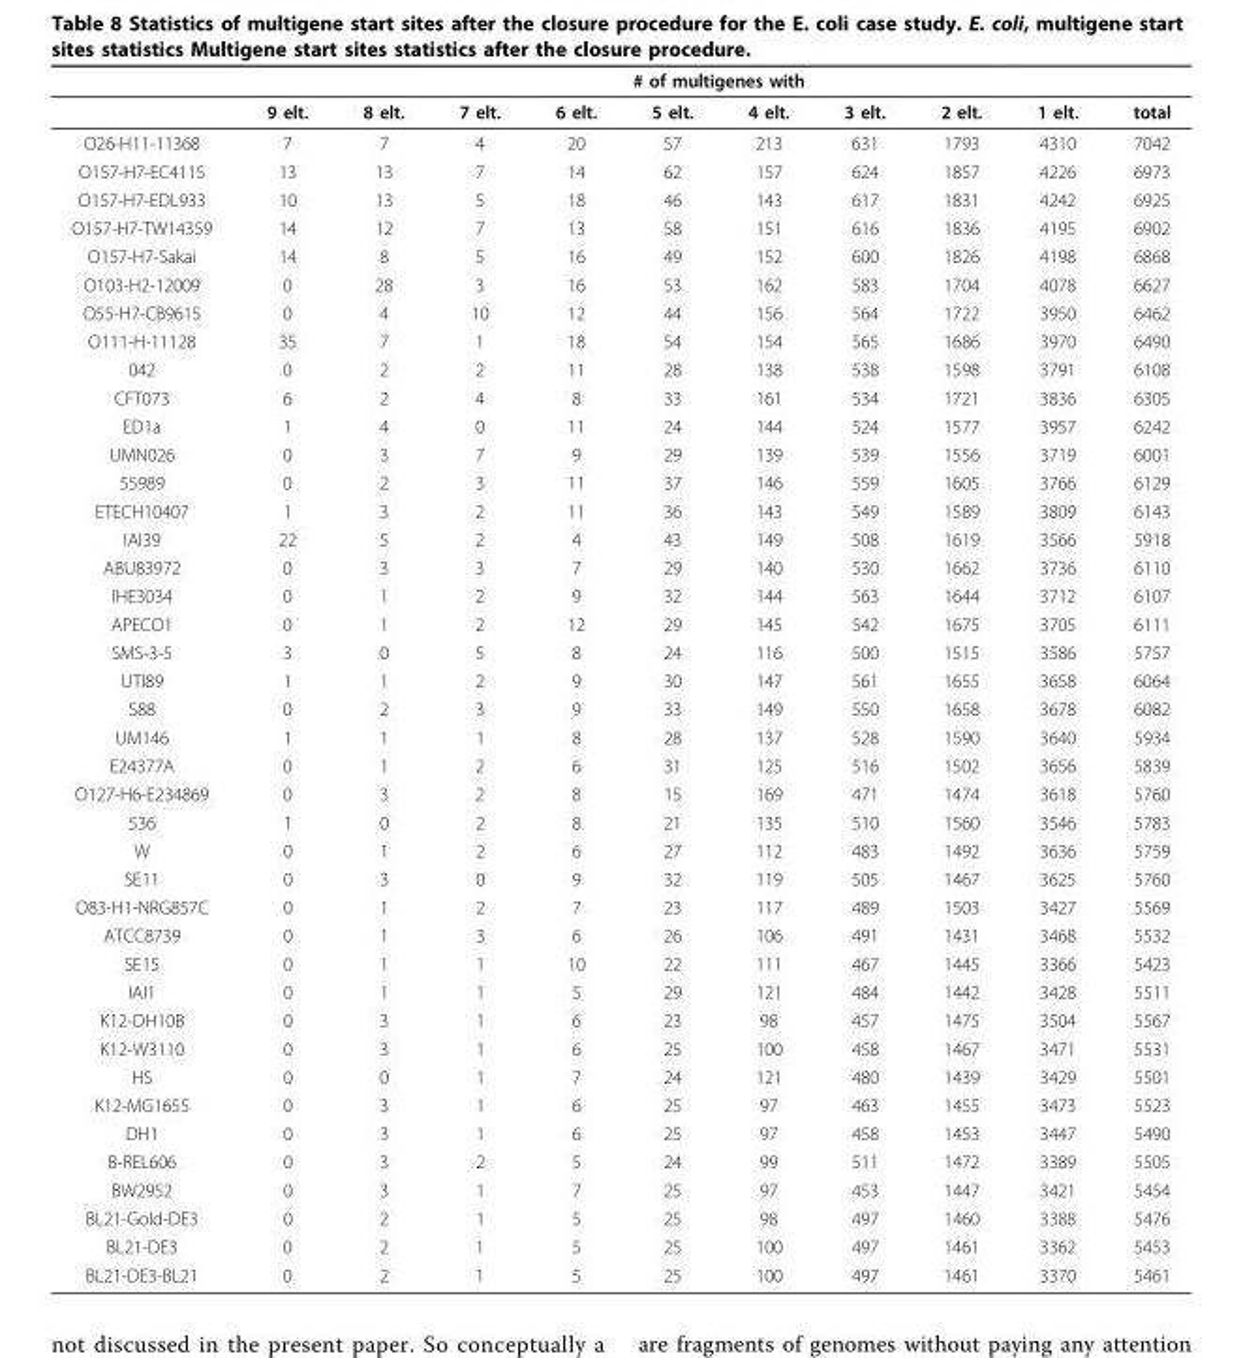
<table><thead><tr><td rowspan="2"></td><td colspan="10"># of multigenes with</td></tr><tr><td>9 elt.</td><td>8 elt.</td><td>7 elt.</td><td>6 elt.</td><td>5 elt.</td><td>4 elt.</td><td>3 elt.</td><td>2 elt.</td><td>1 elt.</td><td>total</td></tr></thead><tbody><tr><td>O26-H11-11368</td><td>7</td><td>7</td><td>4</td><td>20</td><td>57</td><td>213</td><td>631</td><td>1793</td><td>4310</td><td>7042</td></tr><tr><td>O157-H7-EC4115</td><td>13</td><td>13</td><td>7</td><td>14</td><td>62</td><td>157</td><td>624</td><td>1857</td><td>4226</td><td>6973</td></tr><tr><td>O157-H7-EDL933</td><td>10</td><td>13</td><td>5</td><td>18</td><td>46</td><td>143</td><td>617</td><td>1831</td><td>4242</td><td>6925</td></tr><tr><td>O157-H7-TW14359</td><td>14</td><td>12</td><td>7</td><td>13</td><td>58</td><td>151</td><td>616</td><td>1836</td><td>4195</td><td>6902</td></tr><tr><td>O157-H7-Sakai</td><td>14</td><td>8</td><td>5</td><td>16</td><td>49</td><td>152</td><td>600</td><td>1826</td><td>4198</td><td>6868</td></tr><tr><td>O103-H2-12009</td><td>0</td><td>28</td><td>3</td><td>16</td><td>53</td><td>162</td><td>583</td><td>1704</td><td>4078</td><td>6627</td></tr><tr><td>O55-H7-CB9615</td><td>0</td><td>4</td><td>10</td><td>12</td><td>44</td><td>156</td><td>564</td><td>1722</td><td>3950</td><td>6462</td></tr><tr><td>O111-H-11128</td><td>35</td><td>7</td><td>1</td><td>18</td><td>54</td><td>154</td><td>565</td><td>1686</td><td>3970</td><td>6490</td></tr><tr><td>042</td><td>0</td><td>2</td><td>2</td><td>11</td><td>28</td><td>138</td><td>538</td><td>1598</td><td>3791</td><td>6108</td></tr><tr><td>CFT073</td><td>6</td><td>2</td><td>4</td><td>8</td><td>33</td><td>161</td><td>534</td><td>1721</td><td>3836</td><td>6305</td></tr><tr><td>ED1a</td><td>1</td><td>4</td><td>0</td><td>11</td><td>24</td><td>144</td><td>524</td><td>1577</td><td>3957</td><td>6242</td></tr><tr><td>UMN026</td><td>0</td><td>3</td><td>7</td><td>9</td><td>29</td><td>139</td><td>539</td><td>1556</td><td>3719</td><td>6001</td></tr><tr><td>55989</td><td>0</td><td>2</td><td>3</td><td>11</td><td>37</td><td>146</td><td>559</td><td>1605</td><td>3766</td><td>6129</td></tr><tr><td>ETECH10407</td><td>1</td><td>3</td><td>2</td><td>11</td><td>36</td><td>143</td><td>549</td><td>1589</td><td>3809</td><td>6143</td></tr><tr><td>IAI39</td><td>22</td><td>5</td><td>2</td><td>4</td><td>43</td><td>149</td><td>508</td><td>1619</td><td>3566</td><td>5918</td></tr><tr><td>ABU83972</td><td>0</td><td>3</td><td>3</td><td>7</td><td>29</td><td>140</td><td>530</td><td>1662</td><td>3736</td><td>6110</td></tr><tr><td>IHE3034</td><td>0</td><td>1</td><td>2</td><td>9</td><td>32</td><td>144</td><td>563</td><td>1644</td><td>3712</td><td>6107</td></tr><tr><td>APECO1</td><td>0</td><td>1</td><td>2</td><td>12</td><td>29</td><td>145</td><td>542</td><td>1675</td><td>3705</td><td>6111</td></tr><tr><td>SMS-3-5</td><td>3</td><td>0</td><td>5</td><td>8</td><td>24</td><td>116</td><td>500</td><td>1515</td><td>3586</td><td>5757</td></tr><tr><td>UTI89</td><td>1</td><td>1</td><td>2</td><td>9</td><td>30</td><td>147</td><td>561</td><td>1655</td><td>3658</td><td>6064</td></tr><tr><td>S88</td><td>0</td><td>2</td><td>3</td><td>9</td><td>33</td><td>149</td><td>550</td><td>1658</td><td>3678</td><td>6082</td></tr><tr><td>UM146</td><td>1</td><td>1</td><td>1</td><td>8</td><td>28</td><td>137</td><td>528</td><td>1590</td><td>3640</td><td>5934</td></tr><tr><td>E24377A</td><td>0</td><td>1</td><td>2</td><td>6</td><td>31</td><td>125</td><td>516</td><td>1502</td><td>3656</td><td>5839</td></tr><tr><td>O127-H6-E234869</td><td>0</td><td>3</td><td>2</td><td>8</td><td>15</td><td>169</td><td>471</td><td>1474</td><td>3618</td><td>5760</td></tr><tr><td>536</td><td>1</td><td>0</td><td>2</td><td>8</td><td>21</td><td>135</td><td>510</td><td>1560</td><td>3546</td><td>5783</td></tr><tr><td>W</td><td>0</td><td>1</td><td>2</td><td>6</td><td>27</td><td>112</td><td>483</td><td>1492</td><td>3636</td><td>5759</td></tr><tr><td>SE11</td><td>0</td><td>3</td><td>0</td><td>9</td><td>32</td><td>119</td><td>505</td><td>1467</td><td>3625</td><td>5760</td></tr><tr><td>O83-H1-NRG857C</td><td>0</td><td>1</td><td>2</td><td>7</td><td>23</td><td>117</td><td>489</td><td>1503</td><td>3427</td><td>5569</td></tr><tr><td>ATCC8739</td><td>0</td><td>1</td><td>3</td><td>6</td><td>26</td><td>106</td><td>491</td><td>1431</td><td>3468</td><td>5532</td></tr><tr><td>SE15</td><td>0</td><td>1</td><td>1</td><td>10</td><td>22</td><td>111</td><td>467</td><td>1445</td><td>3366</td><td>5423</td></tr><tr><td>IAI1</td><td>0</td><td>1</td><td>1</td><td>5</td><td>29</td><td>121</td><td>484</td><td>1442</td><td>3428</td><td>5511</td></tr><tr><td>K12-DH10B</td><td>0</td><td>3</td><td>1</td><td>6</td><td>23</td><td>98</td><td>457</td><td>1475</td><td>3504</td><td>5567</td></tr><tr><td>K12-W3110</td><td>0</td><td>3</td><td>1</td><td>6</td><td>25</td><td>100</td><td>458</td><td>1467</td><td>3471</td><td>5531</td></tr><tr><td>HS</td><td>0</td><td>0</td><td>1</td><td>7</td><td>24</td><td>121</td><td>480</td><td>1439</td><td>3429</td><td>5501</td></tr><tr><td>K12-MG1655</td><td>0</td><td>3</td><td>1</td><td>6</td><td>25</td><td>97</td><td>463</td><td>1455</td><td>3473</td><td>5523</td></tr><tr><td>DH1</td><td>0</td><td>3</td><td>1</td><td>6</td><td>25</td><td>97</td><td>458</td><td>1453</td><td>3447</td><td>5490</td></tr><tr><td>B-REL606</td><td>0</td><td>3</td><td>2</td><td>5</td><td>24</td><td>99</td><td>511</td><td>1472</td><td>3389</td><td>5505</td></tr><tr><td>BW2952</td><td>0</td><td>3</td><td>1</td><td>7</td><td>25</td><td>97</td><td>453</td><td>1447</td><td>3421</td><td>5454</td></tr><tr><td>BL21-Gold-DE3</td><td>0</td><td>2</td><td>1</td><td>5</td><td>25</td><td>98</td><td>497</td><td>1460</td><td>3388</td><td>5476</td></tr><tr><td>BL21-DE3</td><td>0</td><td>2</td><td>1</td><td>5</td><td>25</td><td>100</td><td>497</td><td>1461</td><td>3362</td><td>5453</td></tr><tr><td>BL21-DE3-BL21</td><td>0</td><td>2</td><td>1</td><td>5</td><td>25</td><td>100</td><td>497</td><td>1461</td><td>3370</td><td>5461</td></tr></tbody></table>